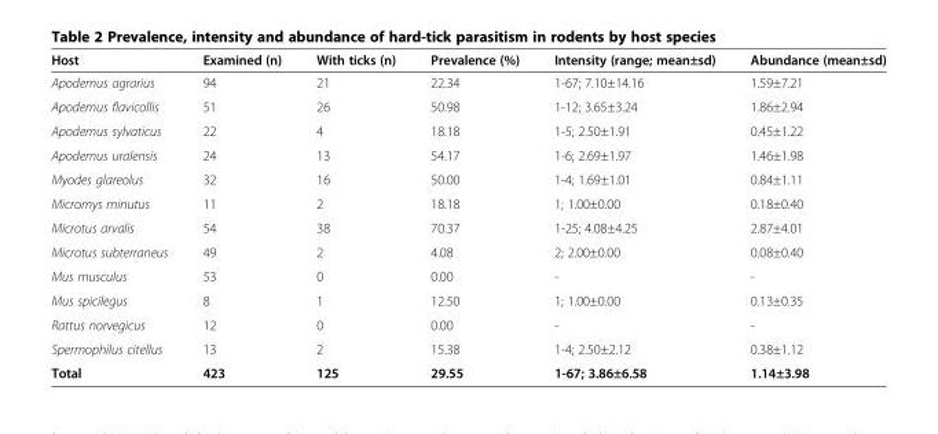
<table><thead><tr><td>Host</td><td>Examined (n)</td><td>With ticks (n)</td><td>Prevalence (%)</td><td>Intensity (range; mean±sd)</td><td>Abundance (mean±sd)</td></tr></thead><tbody><tr><td>Apodemus agrarius</td><td>94</td><td>21</td><td>22.34</td><td>1-67; 7.10±14.16</td><td>1.59±7.21</td></tr><tr><td>Apodemus flavicollis</td><td>51</td><td>26</td><td>50.98</td><td>1-12; 3.65±3.24</td><td>1.86±2.94</td></tr><tr><td>Apodemus sylvaticus</td><td>22</td><td>4</td><td>18.18</td><td>1-5; 2.50±1.91</td><td>0.45±1.22</td></tr><tr><td>Apodemus uralensis</td><td>24</td><td>13</td><td>54.17</td><td>1-6; 2.69±1.97</td><td>1.46±1.98</td></tr><tr><td>Myodes glareolus</td><td>32</td><td>16</td><td>50.00</td><td>1-4; 1.69±1.01</td><td>0.84±1.11</td></tr><tr><td>Micromys minutus</td><td>11</td><td>2</td><td>18.18</td><td>1; 1.00±0.00</td><td>0.18±0.40</td></tr><tr><td>Microtus arvalis</td><td>54</td><td>38</td><td>70.37</td><td>1-25; 4.08±4.25</td><td>2.87±4.01</td></tr><tr><td>Microtus subterraneus</td><td>49</td><td>2</td><td>4.08</td><td>2; 2.00±0.00</td><td>0.08±0.40</td></tr><tr><td>Mus musculus</td><td>53</td><td>0</td><td>0.00</td><td>-</td><td>-</td></tr><tr><td>Mus spicilegus</td><td>8</td><td>1</td><td>12.50</td><td>1; 1.00±0.00</td><td>0.13±0.35</td></tr><tr><td>Rattus norvegicus</td><td>12</td><td>0</td><td>0.00</td><td>-</td><td>-</td></tr><tr><td>Spermophilus citellus</td><td>13</td><td>2</td><td>15.38</td><td>1-4; 2.50±2.12</td><td>0.38±1.12</td></tr><tr><td>Total</td><td>423</td><td>125</td><td>29.55</td><td>1-67; 3.86±6.58</td><td>1.14±3.98</td></tr></tbody></table>